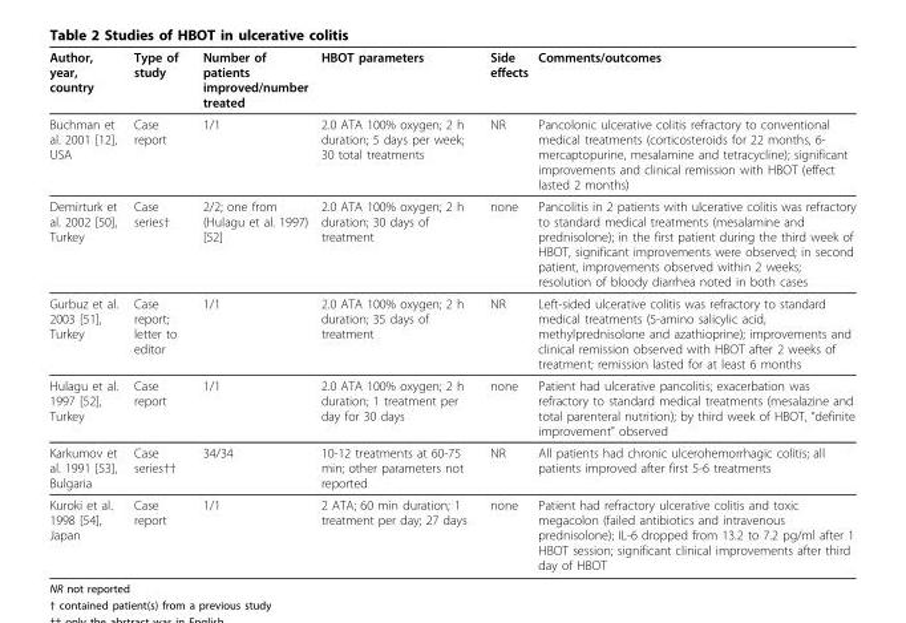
<table><thead><tr><td>Author, year, country</td><td>Type of study</td><td>Number of patients improved/number treated</td><td>HBOT parameters</td><td>Side effects</td><td>Comments/outcomes</td></tr></thead><tbody><tr><td>Buchman et al. 2001 [12], USA</td><td>Case report</td><td>1/1</td><td>2.0 ATA 100% oxygen; 2 h duration; 5 days per week; 30 total treatments</td><td>NR</td><td>Pancolonic ulcerative colitis refractory to conventional medical treatments (corticosteroids for 22 months, 6- mercaptopurine, mesalamine and tetracycline); significant improvements and clinical remission with HBOT (effect lasted 2 months)</td></tr><tr><td>Demirturk et al. 2002 [50], Turkey</td><td>Case series†</td><td>2/2; one from (Hulagu et al. 1997) [52]</td><td>2.0 ATA 100% oxygen; 2 h duration; 30 days of treatment</td><td>none</td><td>Pancolitis in 2 patients with ulcerative colitis was refractory to standard medical treatments (mesalamine and prednisolone); in the first patient during the third week of HBOT, significant improvements were observed; in second patient, improvements observed within 2 weeks; resolution of bloody diarrhea noted in both cases</td></tr><tr><td>Gurbuz et al. 2003 [51], Turkey</td><td>Case report; letter to editor</td><td>1/1</td><td>2.0 ATA 100% oxygen; 2 h duration; 35 days of treatment</td><td>NR</td><td>Left-sided ulcerative colitis was refractory to standard medical treatments (5-amino salicylic acid, methylprednisolone and azathioprine); improvements and clinical remission observed with HBOT after 2 weeks of treatment; remission lasted for at least 6 months</td></tr><tr><td>Hulagu et al. 1997 [52], Turkey</td><td>Case report</td><td>1/1</td><td>2.0 ATA 100% oxygen; 2 h duration; 1 treatment per day for 30 days</td><td>none</td><td>Patient had ulcerative pancolitis; exacerbation was refractory to standard medical treatments (mesalazine and total parenteral nutrition); by third week of HBOT, “definite improvement” observed</td></tr><tr><td>Karkumov et al. 1991 [53], Bulgaria</td><td>Case series††</td><td>34/34</td><td>10-12 treatments at 60-75 min; other parameters not reported</td><td>NR</td><td>All patients had chronic ulcerohemorrhagic colitis; all patients improved after first 5-6 treatments</td></tr><tr><td>Kuroki et al. 1998 [54], Japan</td><td>Case report</td><td>1/1</td><td>2 ATA; 60 min duration; 1 treatment per day; 27 days</td><td>none</td><td>Patient had refractory ulcerative colitis and toxic megacolon (failed antibiotics and intravenous prednisolone); IL-6 dropped from 13.2 to 7.2 pg/ml after 1 HBOT session; significant clinical improvements after third day of HBOT</td></tr></tbody></table>